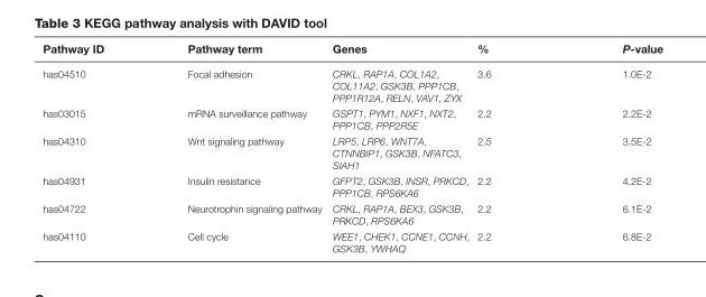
<table><thead><tr><td>Pathway ID</td><td>Pathway term</td><td>Genes</td><td>%</td><td>P-value</td></tr></thead><tbody><tr><td>has04510</td><td>Focal adhesion</td><td>CRKL, RAP1A, COL1A2, COL11A2, GSK3B, PPP1CB, PPP1R12A, RELN, VAV1, ZYX</td><td>3.6</td><td>1.0E-2</td></tr><tr><td>has03015</td><td>mRNA surveillance pathway</td><td>GSPT1, PYM1, NXF1, NXT2, PPP1CB, PPP2R5E</td><td>2.2</td><td>2.2E-2</td></tr><tr><td>has04310</td><td>Wnt signaling pathway</td><td>LRP5, LRP6, WNT7A, CTNNBIP1, GSK3B, NFATC3, SIAH1</td><td>2.5</td><td>3.5E-2</td></tr><tr><td>has04931</td><td>Insulin resistance</td><td>GFPT2, GSK3B, INSR, PRKCD, PPP1CB, RPS6KA6</td><td>2.2</td><td>4.2E-2</td></tr><tr><td>has04722</td><td>Neurotrophin signaling pathway</td><td>CRKL, RAP1A, BEX3, GSK3B, PRKCD, RPS6KA6</td><td>2.2</td><td>6.1E-2</td></tr><tr><td>has04110</td><td>Cell cycle</td><td>WEE1, CHEK1, CCNE1, CCNH, GSK3B, YWHAQ</td><td>2.2</td><td>6.8E-2</td></tr></tbody></table>